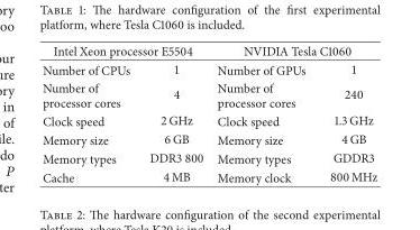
<table><thead><tr><td colspan="2">Intel Xeon processor E5504</td><td colspan="2">NVIDIA Tesla C1060</td></tr><tr><td>Number of CPUs</td><td>1</td><td>Number of GPUs</td><td>1</td></tr></thead><tbody><tr><td>Number of processor cores</td><td>4</td><td>Number of processor cores</td><td>240</td></tr><tr><td>Clock speed</td><td>2 GHz</td><td>Clock speed</td><td>1.3 GHz</td></tr><tr><td>Memory size</td><td>6 GB</td><td>Memory size</td><td>4 GB</td></tr><tr><td>Memory types</td><td>DDR3 800</td><td>Memory types</td><td>GDDR3</td></tr><tr><td>Cache</td><td>4 MB</td><td>Memory clock</td><td>800 MHz</td></tr></tbody></table>